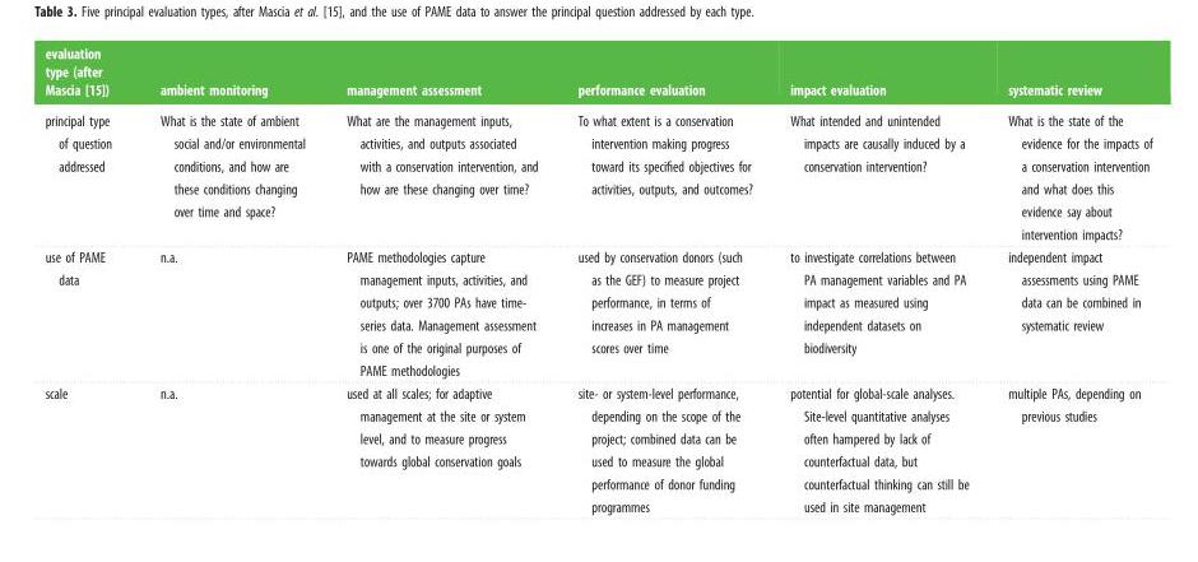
<table><thead><tr><td>evaluation type (after Mascia [15])</td><td>ambient monitoring</td><td>management assessment</td><td>performance evaluation</td><td>impact evaluation</td><td>systematic review</td></tr></thead><tbody><tr><td>principal type of question addressed</td><td>What is the state of ambient social and/or environmental conditions, and how are these conditions changing over time and space?</td><td>What are the management inputs, activities, and outputs associated with a conservation intervention, and how are these changing over time?</td><td>To what extent is a conservation intervention making progress toward its specified objectives for activities, outputs, and outcomes?</td><td>What intended and unintended impacts are causally induced by a conservation intervention?</td><td>What is the state of the evidence for the impacts of a conservation intervention and what does this evidence say about intervention impacts?</td></tr><tr><td>use of PAME data</td><td>n.a.</td><td>PAME methodologies capture management inputs, activities, and outputs; over 3700 PAs have time- series data. Management assessment is one of the original purposes of PAME methodologies</td><td>used by conservation donors (such as the GEF) to measure project performance, in terms of increases in PA management scores over time</td><td>to investigate correlations between PA management variables and PA impact as measured using independent datasets on biodiversity</td><td>independent impact assessments using PAME data can be combined in systematic review</td></tr><tr><td>scale</td><td>n.a.</td><td>used at all scales; for adaptive management at the site or system level, and to measure progress towards global conservation goals</td><td>site- or system-level performance, depending on the scope of the project; combined data can be used to measure the global performance of donor funding programmes</td><td>potential for global-scale analyses. Site-level quantitative analyses often hampered by lack of counterfactual data, but counterfactual thinking can still be used in site management</td><td>multiple PAs, depending on previous studies</td></tr></tbody></table>